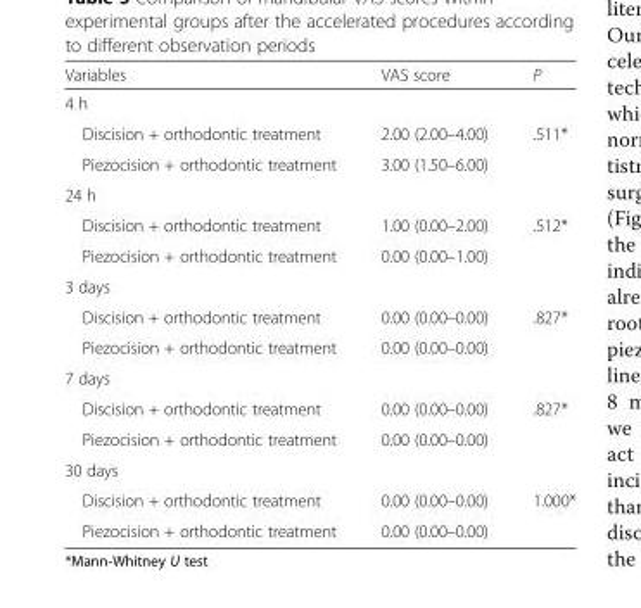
<table><thead><tr><td>Variables</td><td>VAS score</td><td>P</td></tr></thead><tbody><tr><td colspan="3">4 h</td></tr><tr><td>Discision + orthodontic treatment</td><td>2.00 (2.00–4.00)</td><td rowspan="2">.511*</td></tr><tr><td>Piezocision + orthodontic treatment</td><td>3.00 (1.50–6.00)</td></tr><tr><td colspan="3">24 h</td></tr><tr><td>Discision + orthodontic treatment</td><td>1.00 (0.00–2.00)</td><td rowspan="2">.512*</td></tr><tr><td>Piezocision + orthodontic treatment</td><td>0.00 (0.00–1.00)</td></tr><tr><td colspan="3">3 days</td></tr><tr><td>Discision + orthodontic treatment</td><td>0.00 (0.00–0.00)</td><td rowspan="2">.827*</td></tr><tr><td>Piezocision + orthodontic treatment</td><td>0.00 (0.00–0.00)</td></tr><tr><td colspan="3">7 days</td></tr><tr><td>Discision + orthodontic treatment</td><td>0.00 (0.00–0.00)</td><td rowspan="2">.827*</td></tr><tr><td>Piezocision + orthodontic treatment</td><td>0.00 (0.00–0.00)</td></tr><tr><td colspan="3">30 days</td></tr><tr><td>Discision + orthodontic treatment</td><td>0.00 (0.00–0.00)</td><td rowspan="2">1.000*</td></tr><tr><td>Piezocision + orthodontic treatment</td><td>0.00 (0.00–0.00)</td></tr></tbody></table>